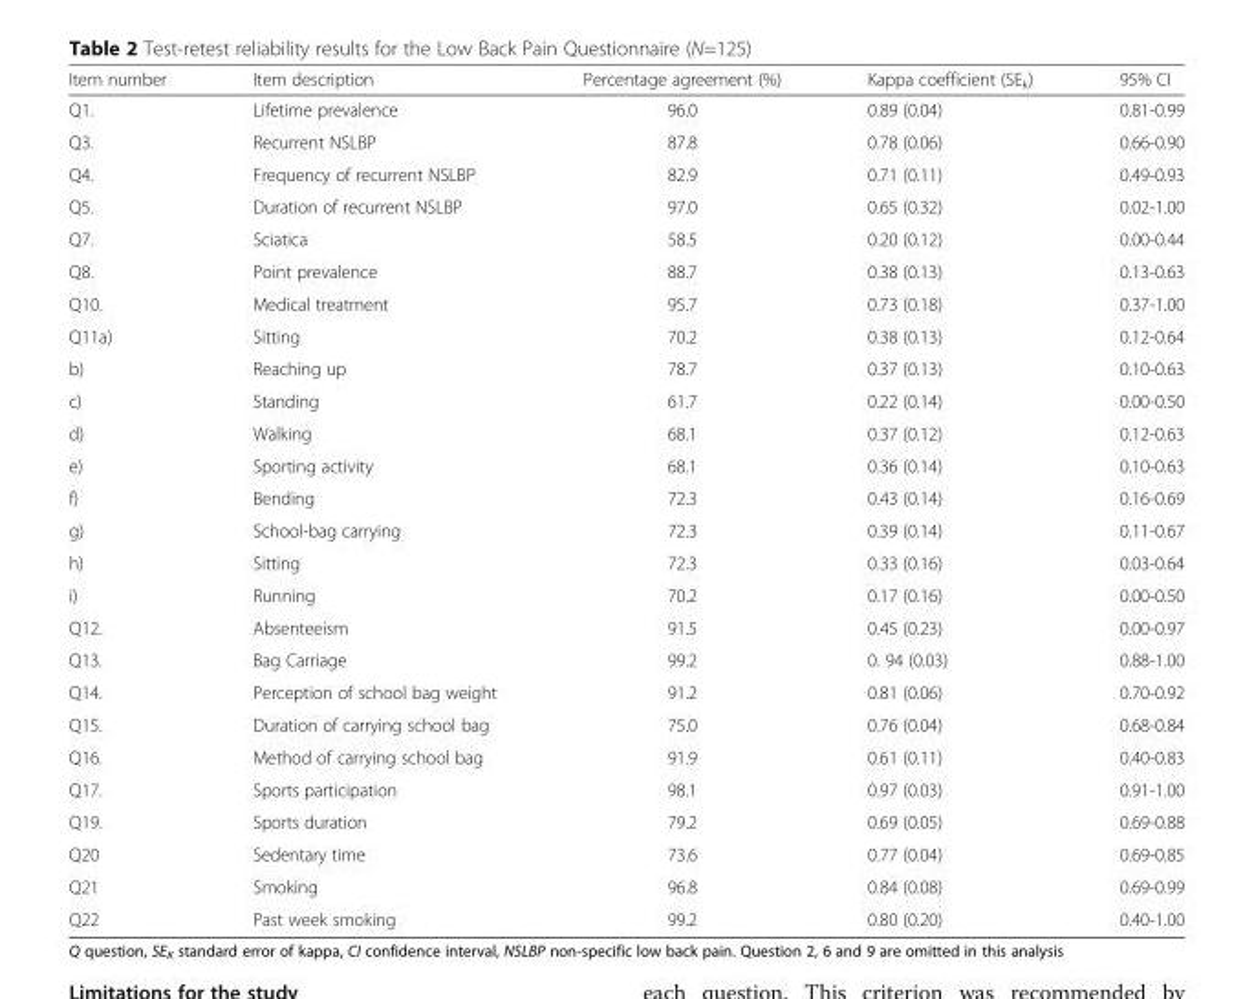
<table><thead><tr><td>Item number</td><td>Item description</td><td>Percentage agreement (%)</td><td>Kappa coefficient (SE<sub>k</sub>)</td><td>95% CI</td></tr></thead><tbody><tr><td>Q1.</td><td>Lifetime prevalence</td><td>96.0</td><td>0.89 (0.04)</td><td>0.81-0.99</td></tr><tr><td>Q3.</td><td>Recurrent NSLBP</td><td>87.8</td><td>0.78 (0.06)</td><td>0.66-0.90</td></tr><tr><td>Q4.</td><td>Frequency of recurrent NSLBP</td><td>82.9</td><td>0.71 (0.11)</td><td>0.49-0.93</td></tr><tr><td>Q5.</td><td>Duration of recurrent NSLBP</td><td>97.0</td><td>0.65 (0.32)</td><td>0.02-1.00</td></tr><tr><td>Q7.</td><td>Sciatica</td><td>58.5</td><td>0.20 (0.12)</td><td>0.00-0.44</td></tr><tr><td>Q8.</td><td>Point prevalence</td><td>88.7</td><td>0.38 (0.13)</td><td>0.13-0.63</td></tr><tr><td>Q10.</td><td>Medical treatment</td><td>95.7</td><td>0.73 (0.18)</td><td>0.37-1.00</td></tr><tr><td>Q11a)</td><td>Sitting</td><td>70.2</td><td>0.38 (0.13)</td><td>0.12-0.64</td></tr><tr><td>b)</td><td>Reaching up</td><td>78.7</td><td>0.37 (0.13)</td><td>0.10-0.63</td></tr><tr><td>c)</td><td>Standing</td><td>61.7</td><td>0.22 (0.14)</td><td>0.00-0.50</td></tr><tr><td>d)</td><td>Walking</td><td>68.1</td><td>0.37 (0.12)</td><td>0.12-0.63</td></tr><tr><td>e)</td><td>Sporting activity</td><td>68.1</td><td>0.36 (0.14)</td><td>0.10-0.63</td></tr><tr><td>f)</td><td>Bending</td><td>72.3</td><td>0.43 (0.14)</td><td>0.16-0.69</td></tr><tr><td>g)</td><td>School-bag carrying</td><td>72.3</td><td>0.39 (0.14)</td><td>0.11-0.67</td></tr><tr><td>h)</td><td>Sitting</td><td>72.3</td><td>0.33 (0.16)</td><td>0.03-0.64</td></tr><tr><td>i)</td><td>Running</td><td>70.2</td><td>0.17 (0.16)</td><td>0.00-0.50</td></tr><tr><td>Q12.</td><td>Absenteeism</td><td>91.5</td><td>0.45 (0.23)</td><td>0.00-0.97</td></tr><tr><td>Q13.</td><td>Bag Carriage</td><td>99.2</td><td>0. 94 (0.03)</td><td>0.88-1.00</td></tr><tr><td>Q14.</td><td>Perception of school bag weight</td><td>91.2</td><td>0.81 (0.06)</td><td>0.70-0.92</td></tr><tr><td>Q15.</td><td>Duration of carrying school bag</td><td>75.0</td><td>0.76 (0.04)</td><td>0.68-0.84</td></tr><tr><td>Q16.</td><td>Method of carrying school bag</td><td>91.9</td><td>0.61 (0.11)</td><td>0.40-0.83</td></tr><tr><td>Q17.</td><td>Sports participation</td><td>98.1</td><td>0.97 (0.03)</td><td>0.91-1.00</td></tr><tr><td>Q19.</td><td>Sports duration</td><td>79.2</td><td>0.69 (0.05)</td><td>0.69-0.88</td></tr><tr><td>Q20</td><td>Sedentary time</td><td>73.6</td><td>0.77 (0.04)</td><td>0.69-0.85</td></tr><tr><td>Q21</td><td>Smoking</td><td>96.8</td><td>0.84 (0.08)</td><td>0.69-0.99</td></tr><tr><td>Q22</td><td>Past week smoking</td><td>99.2</td><td>0.80 (0.20)</td><td>0.40-1.00</td></tr></tbody></table>